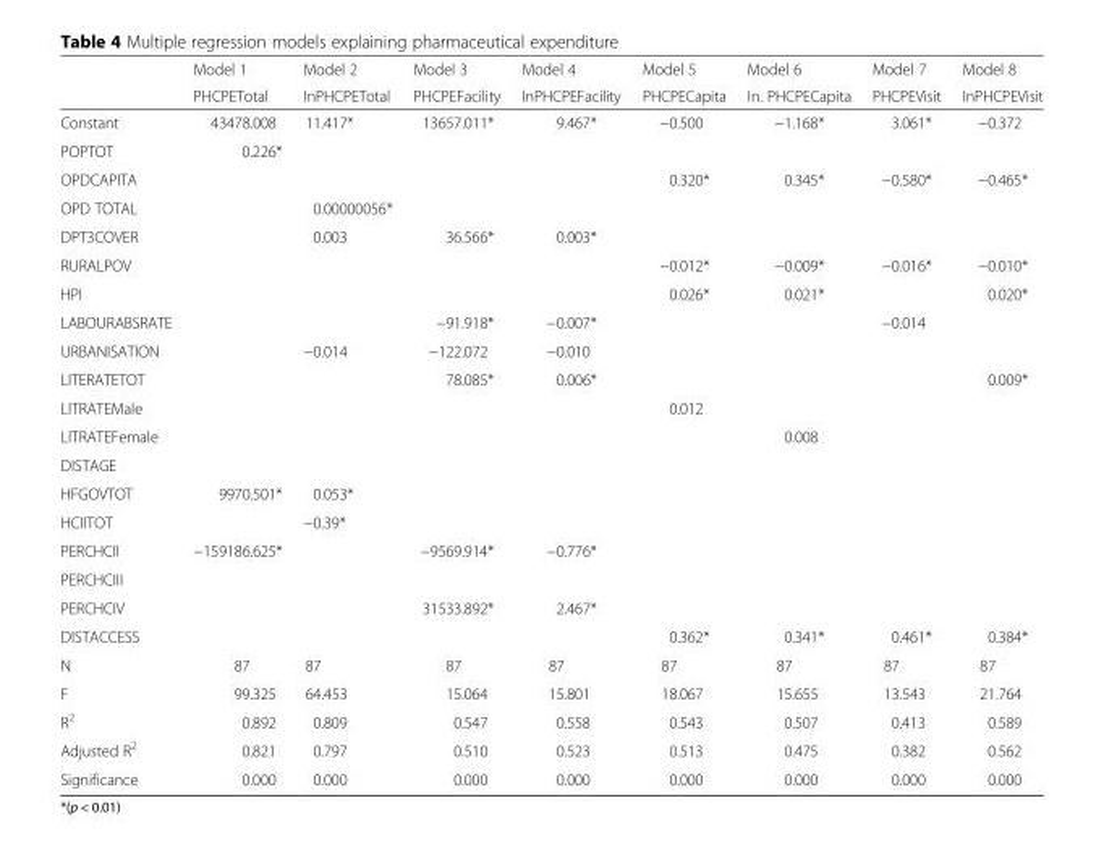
<table><thead><tr><td rowspan="2"></td><td rowspan="2">Model 1 PHCPETotal</td><td rowspan="2">Model 2 InPHCPETotal</td><td rowspan="2">Model 3 PHCPEFacility</td><td rowspan="2">Model 4 InPHCPEFacility</td><td rowspan="2">Model 5 PHCPECapita</td><td rowspan="2">Model 6 In. PHCPECapita</td><td rowspan="2">Model 7 PHCPEVisit</td><td rowspan="2">Model 8 InPHCPEVisit</td></tr><tr></tr></thead><tbody><tr><td>Constant</td><td>43478.008</td><td>11.417*</td><td>13657.011*</td><td>9.467*</td><td>−0.500</td><td>−1.168*</td><td>3.061*</td><td>−0.372</td></tr><tr><td>POPTOT</td><td>0.226*</td><td></td><td></td><td></td><td></td><td></td><td></td><td></td></tr><tr><td>OPDCAPITA</td><td></td><td></td><td></td><td></td><td>0.320*</td><td>0.345*</td><td>−0.580*</td><td>−0.465*</td></tr><tr><td>OPD TOTAL</td><td></td><td>0.00000056*</td><td></td><td></td><td></td><td></td><td></td><td></td></tr><tr><td>DPT3COVER</td><td></td><td>0.003</td><td>36.566*</td><td>0.003*</td><td></td><td></td><td></td><td></td></tr><tr><td>RURALPOV</td><td></td><td></td><td></td><td></td><td>−0.012*</td><td>−0.009*</td><td>−0.016*</td><td>−0.010*</td></tr><tr><td>HPI</td><td></td><td></td><td></td><td></td><td>0.026*</td><td>0.021*</td><td></td><td>0.020*</td></tr><tr><td>LABOURABSRATE</td><td></td><td></td><td>−91.918*</td><td>−0.007*</td><td></td><td></td><td>−0.014</td><td></td></tr><tr><td>URBANISATION</td><td></td><td>−0.014</td><td>−122.072</td><td>−0.010</td><td></td><td></td><td></td><td></td></tr><tr><td>LITERATETOT</td><td></td><td></td><td>78.085*</td><td>0.006*</td><td></td><td></td><td></td><td>0.009*</td></tr><tr><td>LITRATEMale</td><td></td><td></td><td></td><td></td><td>0.012</td><td></td><td></td><td></td></tr><tr><td>LITRATEFemale</td><td></td><td></td><td></td><td></td><td></td><td>0.008</td><td></td><td></td></tr><tr><td colspan="9">DISTAGE</td></tr><tr><td>HFGOVTOT</td><td>9970.501*</td><td>0.053*</td><td></td><td></td><td></td><td></td><td></td><td></td></tr><tr><td>HCIITOT</td><td></td><td>−0.39*</td><td></td><td></td><td></td><td></td><td></td><td></td></tr><tr><td>PERCHCII</td><td>−159186.625*</td><td></td><td>−9569.914*</td><td>−0.776*</td><td></td><td></td><td></td><td></td></tr><tr><td colspan="9">PERCHCIII</td></tr><tr><td>PERCHCIV</td><td></td><td></td><td>31533.892*</td><td>2.467*</td><td></td><td></td><td></td><td></td></tr><tr><td>DISTACCESS</td><td></td><td></td><td></td><td></td><td>0.362*</td><td>0.341*</td><td>0.461*</td><td>0.384*</td></tr><tr><td>N</td><td>87</td><td>87</td><td>87</td><td>87</td><td>87</td><td>87</td><td>87</td><td>87</td></tr><tr><td>F</td><td>99.325</td><td>64.453</td><td>15.064</td><td>15.801</td><td>18.067</td><td>15.655</td><td>13.543</td><td>21.764</td></tr><tr><td>R<sup>2</sup></td><td>0.892</td><td>0.809</td><td>0.547</td><td>0.558</td><td>0.543</td><td>0.507</td><td>0.413</td><td>0.589</td></tr><tr><td>Adjusted R<sup>2</sup></td><td>0.821</td><td>0.797</td><td>0.510</td><td>0.523</td><td>0.513</td><td>0.475</td><td>0.382</td><td>0.562</td></tr><tr><td>Significance</td><td>0.000</td><td>0.000</td><td>0.000</td><td>0.000</td><td>0.000</td><td>0.000</td><td>0.000</td><td>0.000</td></tr></tbody></table>